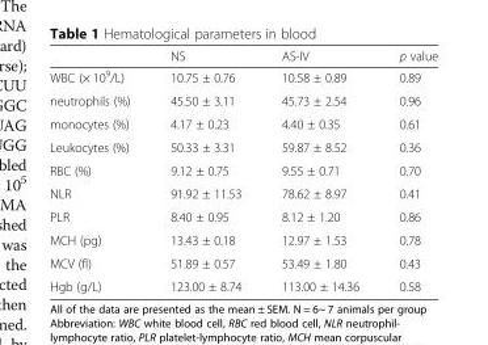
<table><thead><tr><td></td><td>NS</td><td>AS-IV</td><td>p value</td></tr></thead><tbody><tr><td>WBC (× 10<sup>9</sup>/L)</td><td>10.75 ± 0.76</td><td>10.58 ± 0.89</td><td>0.89</td></tr><tr><td>neutrophils (%)</td><td>45.50 ± 3.11</td><td>45.73 ± 2.54</td><td>0.96</td></tr><tr><td>monocytes (%)</td><td>4.17 ± 0.23</td><td>4.40 ± 0.35</td><td>0.61</td></tr><tr><td>Leukocytes (%)</td><td>50.33 ± 3.31</td><td>59.87 ± 8.52</td><td>0.36</td></tr><tr><td>RBC (%)</td><td>9.12 ± 0.75</td><td>9.55 ± 0.71</td><td>0.70</td></tr><tr><td>NLR</td><td>91.92 ± 11.53</td><td>78.62 ± 8.97</td><td>0.41</td></tr><tr><td>PLR</td><td>8.40 ± 0.95</td><td>8.12 ± 1.20</td><td>0.86</td></tr><tr><td>MCH (pg)</td><td>13.43 ± 0.18</td><td>12.97 ± 1.53</td><td>0.78</td></tr><tr><td>MCV (fl)</td><td>51.89 ± 0.57</td><td>53.49 ± 1.80</td><td>0.43</td></tr><tr><td>Hgb (g/L)</td><td>123.00 ± 8.74</td><td>113.00 ± 14.36</td><td>0.58</td></tr></tbody></table>